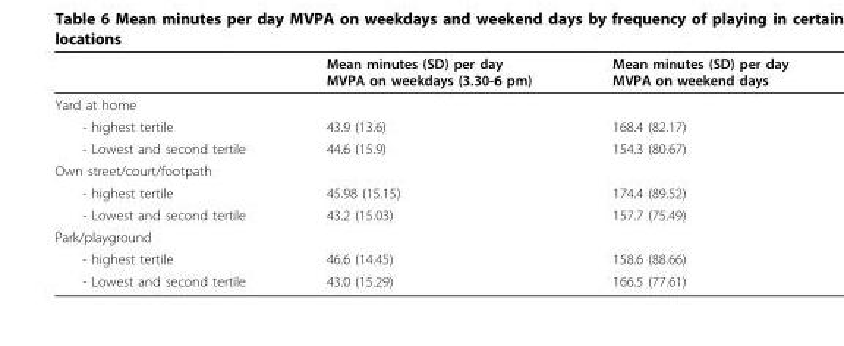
<table><thead><tr><td></td><td>Mean minutes (SD) per day MVPA on weekdays (3.30-6 pm)</td><td>Mean minutes (SD) per day MVPA on weekend days</td></tr></thead><tbody><tr><td colspan="3">Yard at home</td></tr><tr><td>- highest tertile</td><td>43.9 (13.6)</td><td>168.4 (82.17)</td></tr><tr><td>- Lowest and second tertile</td><td>44.6 (15.9)</td><td>154.3 (80.67)</td></tr><tr><td colspan="3">Own street/court/footpath</td></tr><tr><td>- highest tertile</td><td>45.98 (15.15)</td><td>174.4 (89.52)</td></tr><tr><td>- Lowest and second tertile</td><td>43.2 (15.03)</td><td>157.7 (75.49)</td></tr><tr><td colspan="3">Park/playground</td></tr><tr><td>- highest tertile</td><td>46.6 (14.45)</td><td>158.6 (88.66)</td></tr><tr><td>- Lowest and second tertile</td><td>43.0 (15.29)</td><td>166.5 (77.61)</td></tr></tbody></table>